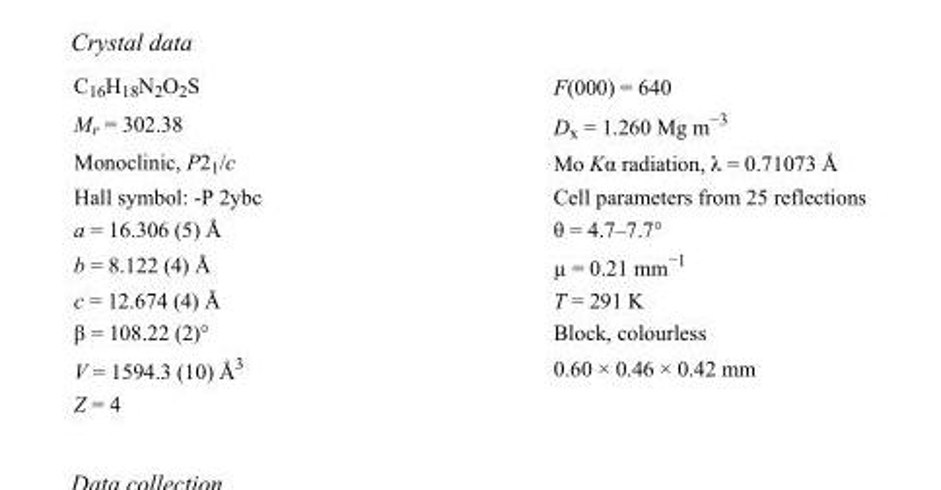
<table><tbody><tr><td>C<sub>16</sub>H<sub>18</sub>N<sub>2</sub>O<sub>2</sub>S</td><td>F(000) = 640</td></tr><tr><td>M<sub>r</sub> = 302.38</td><td>D<sub>x</sub> = 1.260 Mg m<sup>−3</sup></td></tr><tr><td>Monoclinic, P2<sub>1</sub>/c</td><td>Mo Kα radiation, λ = 0.71073 Å</td></tr><tr><td>Hall symbol: -P 2ybc</td><td>Cell parameters from 25 reflections</td></tr><tr><td>a = 16.306 (5) Å</td><td>θ = 4.7–7.7°</td></tr><tr><td>b = 8.122 (4) Å</td><td>µ = 0.21 mm<sup>−1</sup></td></tr><tr><td>c = 12.674 (4) Å</td><td>T = 291 K</td></tr><tr><td>β = 108.22 (2)°</td><td>Block, colourless</td></tr><tr><td>V = 1594.3 (10) Å<sup>3</sup></td><td>0.60 × 0.46 × 0.42 mm</td></tr><tr><td>Z = 4</td><td></td></tr></tbody></table>